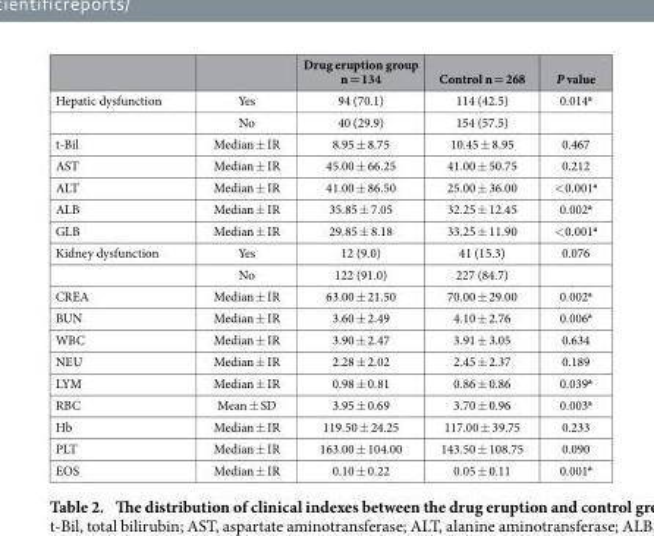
<table><thead><tr><td></td><td></td><td>Drug eruption group n = 134</td><td>Control n = 268</td><td>P value</td></tr></thead><tbody><tr><td rowspan="2">Hepatic dysfunction</td><td>Yes</td><td>94 (70.1)</td><td>114 (42.5)</td><td>0.014<sup>a</sup></td></tr><tr><td>No</td><td>40 (29.9)</td><td>154 (57.5)</td><td></td></tr><tr><td>t-Bil</td><td>Median ± IR</td><td>8.95 ± 8.75</td><td>10.45 ± 8.95</td><td>0.467</td></tr><tr><td>AST</td><td>Median ± IR</td><td>45.00 ± 66.25</td><td>41.00 ± 50.75</td><td>0.212</td></tr><tr><td>ALT</td><td>Median ± IR</td><td>41.00 ± 86.50</td><td>25.00 ± 36.00</td><td>&lt; 0.001<sup>a</sup></td></tr><tr><td>ALB</td><td>Median ± IR</td><td>35.85 ± 7.05</td><td>32.25 ± 12.45</td><td>0.002<sup>a</sup></td></tr><tr><td>GLB</td><td>Median ± IR</td><td>29.85 ± 8.18</td><td>33.25 ± 11.90</td><td>&lt; 0.001<sup>a</sup></td></tr><tr><td rowspan="2">Kidney dysfunction</td><td>Yes</td><td>12 (9.0)</td><td>41 (15.3)</td><td>0.076</td></tr><tr><td>No</td><td>122 (91.0)</td><td>227 (84.7)</td><td></td></tr><tr><td>CREA</td><td>Median ± IR</td><td>63.00 ± 21.50</td><td>70.00 ± 29.00</td><td>0.002<sup>a</sup></td></tr><tr><td>BUN</td><td>Median ± IR</td><td>3.60 ± 2.49</td><td>4.10 ± 2.76</td><td>0.006<sup>a</sup></td></tr><tr><td>WBC</td><td>Median ± IR</td><td>3.90 ± 2.47</td><td>3.91 ± 3.05</td><td>0.634</td></tr><tr><td>NEU</td><td>Median ± IR</td><td>2.28 ± 2.02</td><td>2.45 ± 2.37</td><td>0.189</td></tr><tr><td>LYM</td><td>Median ± IR</td><td>0.98 ± 0.81</td><td>0.86 ± 0.86</td><td>0.039<sup>a</sup></td></tr><tr><td>RBC</td><td>Mean ± SD</td><td>3.95 ± 0.69</td><td>3.70 ± 0.96</td><td>0.003<sup>a</sup></td></tr><tr><td>Hb</td><td>Median ± IR</td><td>119.50 ± 24.25</td><td>117.00 ± 39.75</td><td>0.233</td></tr><tr><td>PLT</td><td>Median ± IR</td><td>163.00 ± 104.00</td><td>143.50 ± 108.75</td><td>0.090</td></tr><tr><td>EOS</td><td>Median ± IR</td><td>0.10 ± 0.22</td><td>0.05 ± 0.11</td><td>0.001<sup>a</sup></td></tr></tbody></table>